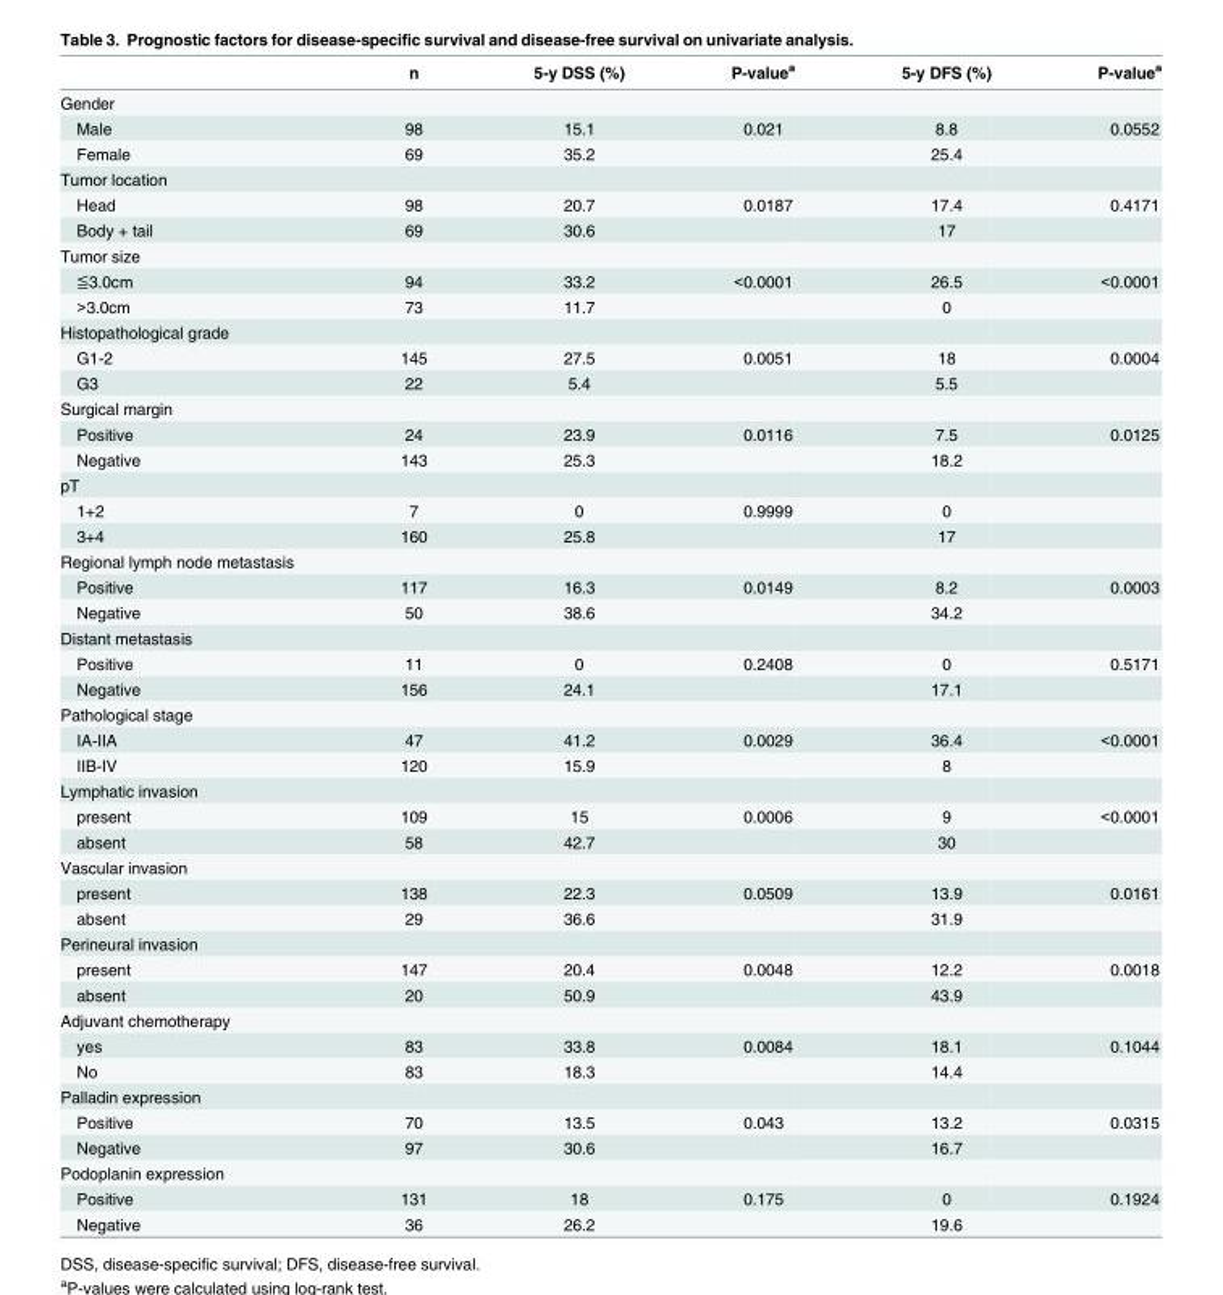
<table><thead><tr><td></td><td>n</td><td>5-y DSS (%)</td><td>P-value<sup>a</sup></td><td>5-y DFS (%)</td><td>P-value<sup>a</sup></td></tr></thead><tbody><tr><td colspan="6">Gender</td></tr><tr><td>Male</td><td>98</td><td>15.1</td><td>0.021</td><td>8.8</td><td>0.0552</td></tr><tr><td>Female</td><td>69</td><td>35.2</td><td></td><td>25.4</td><td></td></tr><tr><td colspan="6">Tumor location</td></tr><tr><td>Head</td><td>98</td><td>20.7</td><td>0.0187</td><td>17.4</td><td>0.4171</td></tr><tr><td>Body + tail</td><td>69</td><td>30.6</td><td></td><td>17</td><td></td></tr><tr><td colspan="6">Tumor size</td></tr><tr><td>≦3.0cm</td><td>94</td><td>33.2</td><td>&lt;0.0001</td><td>26.5</td><td>&lt;0.0001</td></tr><tr><td>&gt;3.0cm</td><td>73</td><td>11.7</td><td></td><td>0</td><td></td></tr><tr><td colspan="6">Histopathological grade</td></tr><tr><td>G1-2</td><td>145</td><td>27.5</td><td>0.0051</td><td>18</td><td>0.0004</td></tr><tr><td>G3</td><td>22</td><td>5.4</td><td></td><td>5.5</td><td></td></tr><tr><td colspan="6">Surgical margin</td></tr><tr><td>Positive</td><td>24</td><td>23.9</td><td>0.0116</td><td>7.5</td><td>0.0125</td></tr><tr><td>Negative</td><td>143</td><td>25.3</td><td></td><td>18.2</td><td></td></tr><tr><td colspan="6">pT</td></tr><tr><td>1+2</td><td>7</td><td>0</td><td>0.9999</td><td>0</td><td></td></tr><tr><td>3+4</td><td>160</td><td>25.8</td><td></td><td>17</td><td></td></tr><tr><td colspan="6">Regional lymph node metastasis</td></tr><tr><td>Positive</td><td>117</td><td>16.3</td><td>0.0149</td><td>8.2</td><td>0.0003</td></tr><tr><td>Negative</td><td>50</td><td>38.6</td><td></td><td>34.2</td><td></td></tr><tr><td colspan="6">Distant metastasis</td></tr><tr><td>Positive</td><td>11</td><td>0</td><td>0.2408</td><td>0</td><td>0.5171</td></tr><tr><td>Negative</td><td>156</td><td>24.1</td><td></td><td>17.1</td><td></td></tr><tr><td colspan="6">Pathological stage</td></tr><tr><td>IA-IIA</td><td>47</td><td>41.2</td><td>0.0029</td><td>36.4</td><td>&lt;0.0001</td></tr><tr><td>IIB-IV</td><td>120</td><td>15.9</td><td></td><td>8</td><td></td></tr><tr><td colspan="6">Lymphatic invasion</td></tr><tr><td>present</td><td>109</td><td>15</td><td>0.0006</td><td>9</td><td>&lt;0.0001</td></tr><tr><td>absent</td><td>58</td><td>42.7</td><td></td><td>30</td><td></td></tr><tr><td colspan="6">Vascular invasion</td></tr><tr><td>present</td><td>138</td><td>22.3</td><td>0.0509</td><td>13.9</td><td>0.0161</td></tr><tr><td>absent</td><td>29</td><td>36.6</td><td></td><td>31.9</td><td></td></tr><tr><td colspan="6">Perineural invasion</td></tr><tr><td>present</td><td>147</td><td>20.4</td><td>0.0048</td><td>12.2</td><td>0.0018</td></tr><tr><td>absent</td><td>20</td><td>50.9</td><td></td><td>43.9</td><td></td></tr><tr><td colspan="6">Adjuvant chemotherapy</td></tr><tr><td>yes</td><td>83</td><td>33.8</td><td>0.0084</td><td>18.1</td><td>0.1044</td></tr><tr><td>No</td><td>83</td><td>18.3</td><td></td><td>14.4</td><td></td></tr><tr><td colspan="6">Palladin expression</td></tr><tr><td>Positive</td><td>70</td><td>13.5</td><td>0.043</td><td>13.2</td><td>0.0315</td></tr><tr><td>Negative</td><td>97</td><td>30.6</td><td></td><td>16.7</td><td></td></tr><tr><td colspan="6">Podoplanin expression</td></tr><tr><td>Positive</td><td>131</td><td>18</td><td>0.175</td><td>0</td><td>0.1924</td></tr><tr><td>Negative</td><td>36</td><td>26.2</td><td></td><td>19.6</td><td></td></tr></tbody></table>